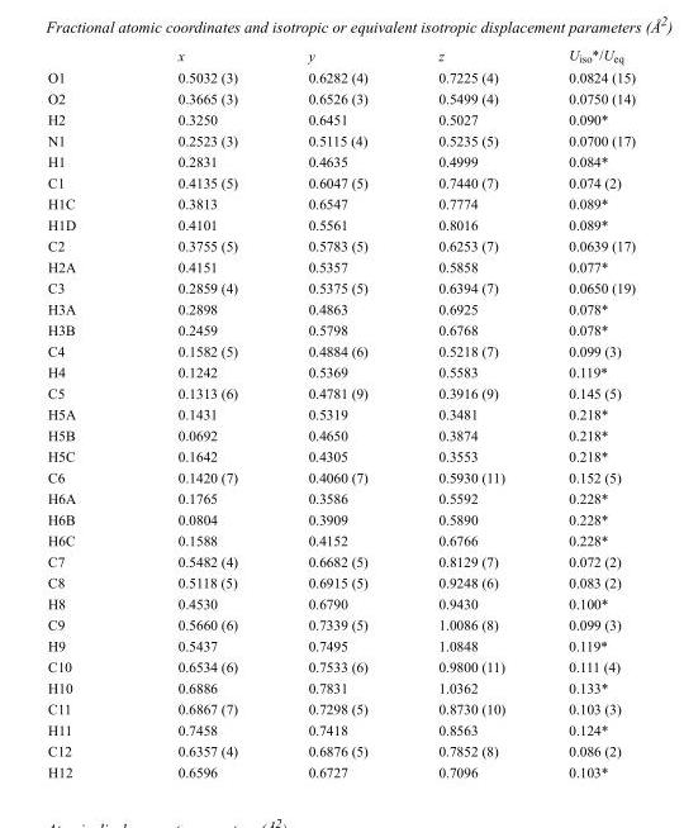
<table><thead><tr><td></td><td>x</td><td>y</td><td>z</td><td>U<sub>iso</sub>*/U<sub>eq</sub></td></tr></thead><tbody><tr><td>O1</td><td>0.5032 (3)</td><td>0.6282 (4)</td><td>0.7225 (4)</td><td>0.0824 (15)</td></tr><tr><td>O2</td><td>0.3665 (3)</td><td>0.6526 (3)</td><td>0.5499 (4)</td><td>0.0750 (14)</td></tr><tr><td>H2</td><td>0.3250</td><td>0.6451</td><td>0.5027</td><td>0.090*</td></tr><tr><td>N1</td><td>0.2523 (3)</td><td>0.5115 (4)</td><td>0.5235 (5)</td><td>0.0700 (17)</td></tr><tr><td>H1</td><td>0.2831</td><td>0.4635</td><td>0.4999</td><td>0.084*</td></tr><tr><td>C1</td><td>0.4135 (5)</td><td>0.6047 (5)</td><td>0.7440 (7)</td><td>0.074 (2)</td></tr><tr><td>H1C</td><td>0.3813</td><td>0.6547</td><td>0.7774</td><td>0.089*</td></tr><tr><td>H1D</td><td>0.4101</td><td>0.5561</td><td>0.8016</td><td>0.089*</td></tr><tr><td>C2</td><td>0.3755 (5)</td><td>0.5783 (5)</td><td>0.6253 (7)</td><td>0.0639 (17)</td></tr><tr><td>H2A</td><td>0.4151</td><td>0.5357</td><td>0.5858</td><td>0.077*</td></tr><tr><td>C3</td><td>0.2859 (4)</td><td>0.5375 (5)</td><td>0.6394 (7)</td><td>0.0650 (19)</td></tr><tr><td>H3A</td><td>0.2898</td><td>0.4863</td><td>0.6925</td><td>0.078*</td></tr><tr><td>H3B</td><td>0.2459</td><td>0.5798</td><td>0.6768</td><td>0.078*</td></tr><tr><td>C4</td><td>0.1582 (5)</td><td>0.4884 (6)</td><td>0.5218 (7)</td><td>0.099 (3)</td></tr><tr><td>H4</td><td>0.1242</td><td>0.5369</td><td>0.5583</td><td>0.119*</td></tr><tr><td>C5</td><td>0.1313 (6)</td><td>0.4781 (9)</td><td>0.3916 (9)</td><td>0.145 (5)</td></tr><tr><td>H5A</td><td>0.1431</td><td>0.5319</td><td>0.3481</td><td>0.218*</td></tr><tr><td>H5B</td><td>0.0692</td><td>0.4650</td><td>0.3874</td><td>0.218*</td></tr><tr><td>H5C</td><td>0.1642</td><td>0.4305</td><td>0.3553</td><td>0.218*</td></tr><tr><td>C6</td><td>0.1420 (7)</td><td>0.4060 (7)</td><td>0.5930 (11)</td><td>0.152 (5)</td></tr><tr><td>H6A</td><td>0.1765</td><td>0.3586</td><td>0.5592</td><td>0.228*</td></tr><tr><td>H6B</td><td>0.0804</td><td>0.3909</td><td>0.5890</td><td>0.228*</td></tr><tr><td>H6C</td><td>0.1588</td><td>0.4152</td><td>0.6766</td><td>0.228*</td></tr><tr><td>C7</td><td>0.5482 (4)</td><td>0.6682 (5)</td><td>0.8129 (7)</td><td>0.072 (2)</td></tr><tr><td>C8</td><td>0.5118 (5)</td><td>0.6915 (5)</td><td>0.9248 (6)</td><td>0.083 (2)</td></tr><tr><td>H8</td><td>0.4530</td><td>0.6790</td><td>0.9430</td><td>0.100*</td></tr><tr><td>C9</td><td>0.5660 (6)</td><td>0.7339 (5)</td><td>1.0086 (8)</td><td>0.099 (3)</td></tr><tr><td>H9</td><td>0.5437</td><td>0.7495</td><td>1.0848</td><td>0.119*</td></tr><tr><td>C10</td><td>0.6534 (6)</td><td>0.7533 (6)</td><td>0.9800 (11)</td><td>0.111 (4)</td></tr><tr><td>H10</td><td>0.6886</td><td>0.7831</td><td>1.0362</td><td>0.133*</td></tr><tr><td>C11</td><td>0.6867 (7)</td><td>0.7298 (5)</td><td>0.8730 (10)</td><td>0.103 (3)</td></tr><tr><td>H11</td><td>0.7458</td><td>0.7418</td><td>0.8563</td><td>0.124*</td></tr><tr><td>C12</td><td>0.6357 (4)</td><td>0.6876 (5)</td><td>0.7852 (8)</td><td>0.086 (2)</td></tr><tr><td>H12</td><td>0.6596</td><td>0.6727</td><td>0.7096</td><td>0.103*</td></tr></tbody></table>